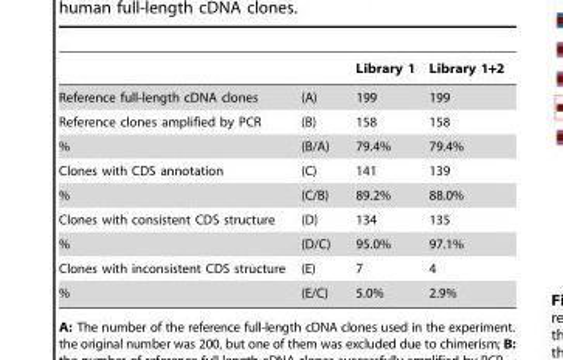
<table><thead><tr><td></td><td></td><td>Library 1</td><td>Library 1+2</td></tr></thead><tbody><tr><td>Reference full-length cDNA clones</td><td>(A)</td><td>199</td><td>199</td></tr><tr><td>Reference clones amplified by PCR</td><td>(B)</td><td>158</td><td>158</td></tr><tr><td>%</td><td>(B/A)</td><td>79.4%</td><td>79.4%</td></tr><tr><td>Clones with CDS annotation</td><td>(C)</td><td>141</td><td>139</td></tr><tr><td>%</td><td>(C/B)</td><td>89.2%</td><td>88.0%</td></tr><tr><td>Clones with consistent CDS structure</td><td>(D)</td><td>134</td><td>135</td></tr><tr><td>%</td><td>(D/C)</td><td>95.0%</td><td>97.1%</td></tr><tr><td>Clones with inconsistent CDS structure</td><td>(E)</td><td>7</td><td>4</td></tr><tr><td>%</td><td>(E/C)</td><td>5.0%</td><td>2.9%</td></tr></tbody></table>